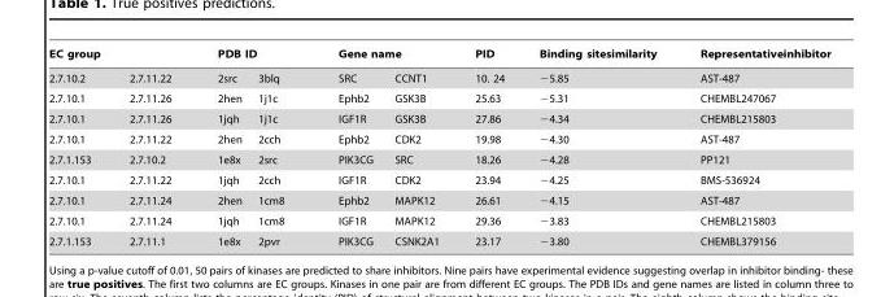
<table><thead><tr><td colspan="2">EC group</td><td colspan="2">PDB ID</td><td colspan="2">Gene name</td><td rowspan="2">PID 10. 24</td><td rowspan="2">Binding sitesimilarity −5.85</td><td rowspan="2">Representativeinhibitor AST-487</td></tr><tr><td>2.7.10.2</td><td>2.7.11.22</td><td>2src</td><td>3blq</td><td>SRC</td><td>CCNT1</td></tr></thead><tbody><tr><td>2.7.10.1</td><td>2.7.11.26</td><td>2hen</td><td>1j1c</td><td>Ephb2</td><td>GSK3B</td><td>25.63</td><td>−5.31</td><td>CHEMBL247067</td></tr><tr><td>2.7.10.1</td><td>2.7.11.26</td><td>1jqh</td><td>1j1c</td><td>IGF1R</td><td>GSK3B</td><td>27.86</td><td>−4.34</td><td>CHEMBL215803</td></tr><tr><td>2.7.10.1</td><td>2.7.11.22</td><td>2hen</td><td>2cch</td><td>Ephb2</td><td>CDK2</td><td>19.98</td><td>−4.30</td><td>AST-487</td></tr><tr><td>2.7.1.153</td><td>2.7.10.2</td><td>1e8x</td><td>2src</td><td>PIK3CG</td><td>SRC</td><td>18.26</td><td>−4.28</td><td>PP121</td></tr><tr><td>2.7.10.1</td><td>2.7.11.22</td><td>1jqh</td><td>2cch</td><td>IGF1R</td><td>CDK2</td><td>23.94</td><td>−4.25</td><td>BMS-536924</td></tr><tr><td>2.7.10.1</td><td>2.7.11.24</td><td>2hen</td><td>1cm8</td><td>Ephb2</td><td>MAPK12</td><td>26.61</td><td>−4.15</td><td>AST-487</td></tr><tr><td>2.7.10.1</td><td>2.7.11.24</td><td>1jqh</td><td>1cm8</td><td>IGF1R</td><td>MAPK12</td><td>29.36</td><td>−3.83</td><td>CHEMBL215803</td></tr><tr><td>2.7.1.153</td><td>2.7.11.1</td><td>1e8x</td><td>2pvr</td><td>PIK3CG</td><td>CSNK2A1</td><td>23.17</td><td>−3.80</td><td>CHEMBL379156</td></tr></tbody></table>